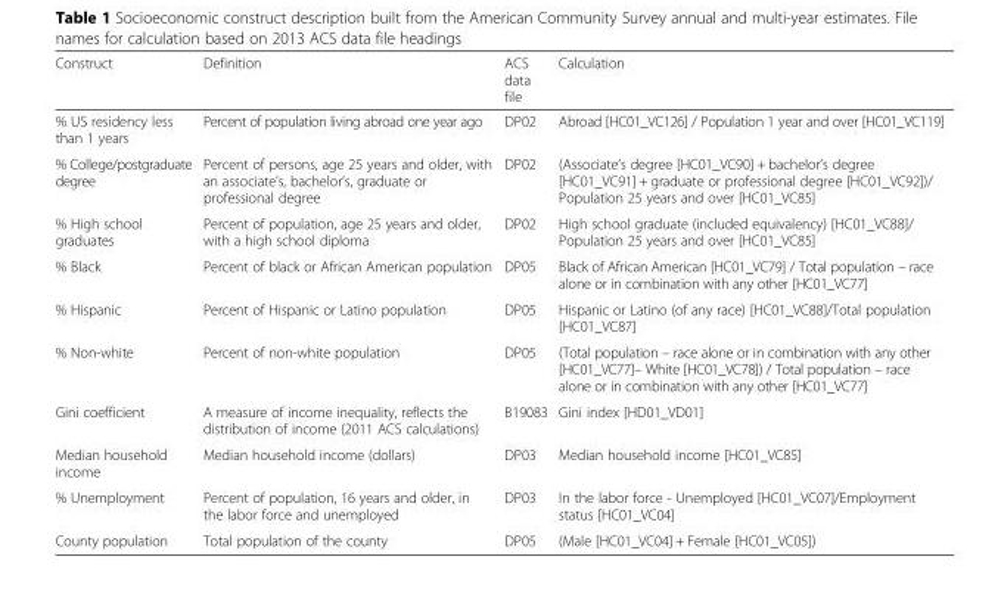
<table><thead><tr><td>Construct</td><td>Definition</td><td>ACS data file</td><td>Calculation</td></tr></thead><tbody><tr><td>% US residency less than 1 years</td><td>Percent of population living abroad one year ago</td><td>DP02</td><td>Abroad [HC01_VC126] / Population 1 year and over [HC01_VC119]</td></tr><tr><td>% College/postgraduate degree</td><td>Percent of persons, age 25 years and older, with an associate’s, bachelor’s, graduate or professional degree</td><td>DP02</td><td>(Associate’s degree [HC01_VC90] + bachelor’s degree [HC01_VC91] + graduate or professional degree [HC01_VC92])/ Population 25 years and over [HC01_VC85]</td></tr><tr><td>% High school graduates</td><td>Percent of population, age 25 years and older, with a high school diploma</td><td>DP02</td><td>High school graduate (included equivalency) [HC01_VC88]/ Population 25 years and over [HC01_VC85]</td></tr><tr><td>% Black</td><td>Percent of black or African American population</td><td>DP05</td><td>Black of African American [HC01_VC79] / Total population – race alone or in combination with any other [HC01_VC77]</td></tr><tr><td>% Hispanic</td><td>Percent of Hispanic or Latino population</td><td>DP05</td><td>Hispanic or Latino (of any race) [HC01_VC88]/Total population [HC01_VC87]</td></tr><tr><td>% Non-white</td><td>Percent of non-white population</td><td>DP05</td><td>(Total population – race alone or in combination with any other [HC01_VC77]– White [HC01_VC78]) / Total population – race alone or in combination with any other [HC01_VC77]</td></tr><tr><td>Gini coefficient</td><td>A measure of income inequality, reflects the distribution of income (2011 ACS calculations)</td><td>B19083</td><td>Gini index [HD01_VD01]</td></tr><tr><td>Median household income</td><td>Median household income (dollars)</td><td>DP03</td><td>Median household income [HC01_VC85]</td></tr><tr><td>% Unemployment</td><td>Percent of population, 16 years and older, in the labor force and unemployed</td><td>DP03</td><td>In the labor force - Unemployed [HC01_VC07]/Employment status [HC01_VC04]</td></tr><tr><td>County population</td><td>Total population of the county</td><td>DP05</td><td>(Male [HC01_VC04] + Female [HC01_VC05])</td></tr></tbody></table>